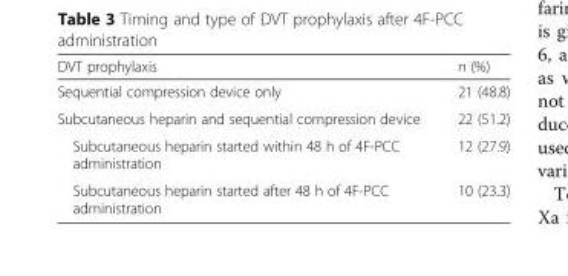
<table><thead><tr><td>DVT prophylaxis</td><td>n (%)</td></tr></thead><tbody><tr><td>Sequential compression device only</td><td>21 (48.8)</td></tr><tr><td>Subcutaneous heparin and sequential compression device</td><td>22 (51.2)</td></tr><tr><td>Subcutaneous heparin started within 48 h of 4F-PCC administration</td><td>12 (27.9)</td></tr><tr><td>Subcutaneous heparin started after 48 h of 4F-PCC administration</td><td>10 (23.3)</td></tr></tbody></table>